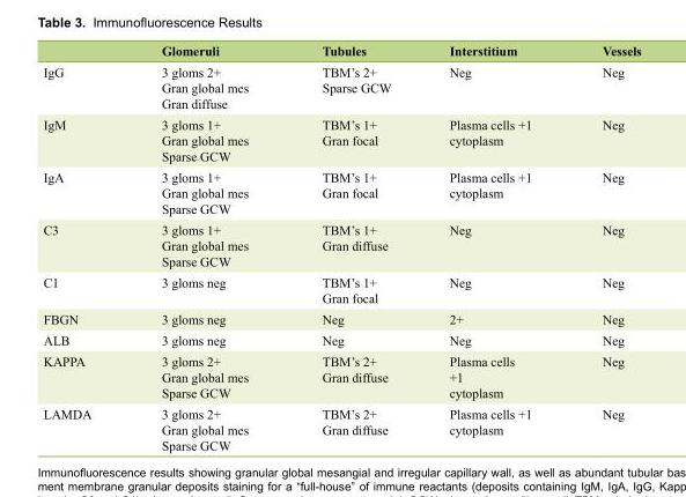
<table><thead><tr><td></td><td>Glomeruli</td><td>Tubules</td><td>Interstitium</td><td>Vessels</td></tr></thead><tbody><tr><td>IgG</td><td>3 gloms 2+ Gran global mes Gran diffuse</td><td>TBM’s 2+ Sparse GCW</td><td>Neg</td><td>Neg</td></tr><tr><td>IgM</td><td>3 gloms 1+ Gran global mes Sparse GCW</td><td>TBM’s 1+ Gran focal</td><td>Plasma cells +1 cytoplasm</td><td>Neg</td></tr><tr><td>IgA</td><td>3 gloms 1+ Gran global mes Sparse GCW</td><td>TBM’s 1+ Gran focal</td><td>Plasma cells +1 cytoplasm</td><td>Neg</td></tr><tr><td>C3</td><td>3 gloms 1+ Gran global mes Sparse GCW</td><td>TBM’s 1+ Gran diffuse</td><td>Neg</td><td>Neg</td></tr><tr><td>C1</td><td>3 gloms neg</td><td>TBM’s 1+ Gran focal</td><td>Neg</td><td>Neg</td></tr><tr><td>FBGN</td><td>3 gloms neg</td><td>Neg</td><td>2+</td><td>Neg</td></tr><tr><td>ALB</td><td>3 gloms neg</td><td>Neg</td><td>Neg</td><td>Neg</td></tr><tr><td>KAPPA</td><td>3 gloms 2+ Gran global mes Sparse GCW</td><td>TBM’s 2+ Gran diffuse</td><td>Plasma cells +1 cytoplasm</td><td>Neg</td></tr><tr><td>LAMDA</td><td>3 gloms 2+ Gran global mes Sparse GCW</td><td>TBM’s 2+ Gran diffuse</td><td>Plasma cells +1 cytoplasm</td><td>Neg</td></tr></tbody></table>